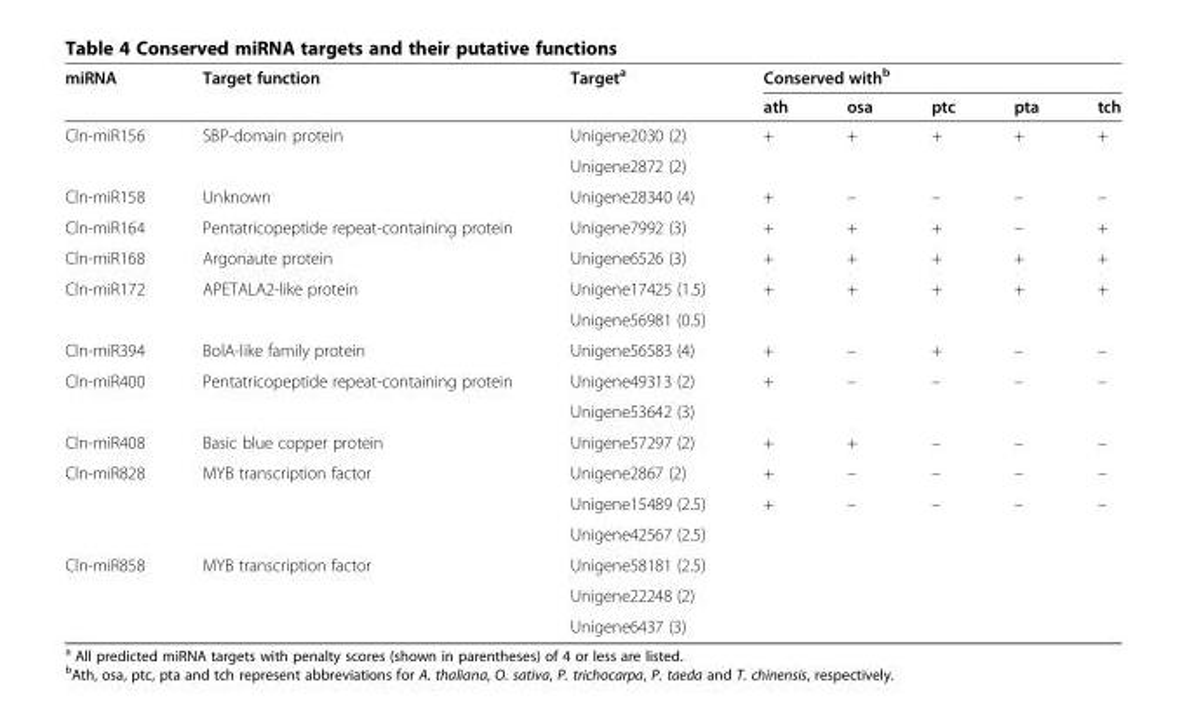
<table><thead><tr><td rowspan="2">miRNA</td><td rowspan="2">Target function</td><td rowspan="2">Target<sup>a</sup></td><td colspan="5">Conserved with<sup>b</sup></td></tr><tr><td>ath</td><td>osa</td><td>ptc</td><td>pta</td><td>tch</td></tr></thead><tbody><tr><td rowspan="2">Cln-miR156</td><td>SBP-domain protein</td><td>Unigene2030 (2)</td><td>+</td><td>+</td><td>+</td><td>+</td><td>+</td></tr><tr><td></td><td>Unigene2872 (2)</td><td></td><td></td><td></td><td></td><td></td></tr><tr><td>Cln-miR158</td><td>Unknown</td><td>Unigene28340 (4)</td><td>+</td><td>–</td><td>–</td><td>–</td><td>–</td></tr><tr><td>Cln-miR164</td><td>Pentatricopeptide repeat-containing protein</td><td>Unigene7992 (3)</td><td>+</td><td>+</td><td>+</td><td>–</td><td>+</td></tr><tr><td>Cln-miR168</td><td>Argonaute protein</td><td>Unigene6526 (3)</td><td>+</td><td>+</td><td>+</td><td>+</td><td>+</td></tr><tr><td rowspan="2">Cln-miR172</td><td>APETALA2-like protein</td><td>Unigene17425 (1.5)</td><td>+</td><td>+</td><td>+</td><td>+</td><td>+</td></tr><tr><td></td><td>Unigene56981 (0.5)</td><td></td><td></td><td></td><td></td><td></td></tr><tr><td>Cln-miR394</td><td>BolA-like family protein</td><td>Unigene56583 (4)</td><td>+</td><td>–</td><td>+</td><td>–</td><td>–</td></tr><tr><td rowspan="2">Cln-miR400</td><td>Pentatricopeptide repeat-containing protein</td><td>Unigene49313 (2)</td><td>+</td><td>–</td><td>–</td><td>–</td><td>–</td></tr><tr><td></td><td>Unigene53642 (3)</td><td></td><td></td><td></td><td></td><td></td></tr><tr><td>Cln-miR408</td><td>Basic blue copper protein</td><td>Unigene57297 (2)</td><td>+</td><td>+</td><td>–</td><td>–</td><td>–</td></tr><tr><td rowspan="3">Cln-miR828</td><td>MYB transcription factor</td><td>Unigene2867 (2)</td><td>+</td><td>–</td><td>–</td><td>–</td><td>–</td></tr><tr><td></td><td>Unigene15489 (2.5)</td><td>+</td><td>–</td><td>–</td><td>–</td><td>–</td></tr><tr><td></td><td>Unigene42567 (2.5)</td><td></td><td></td><td></td><td></td><td></td></tr><tr><td rowspan="3">Cln-miR858</td><td>MYB transcription factor</td><td>Unigene58181 (2.5)</td><td></td><td></td><td></td><td></td><td></td></tr><tr><td></td><td>Unigene22248 (2)</td><td></td><td></td><td></td><td></td><td></td></tr><tr><td></td><td>Unigene6437 (3)</td><td></td><td></td><td></td><td></td><td></td></tr></tbody></table>